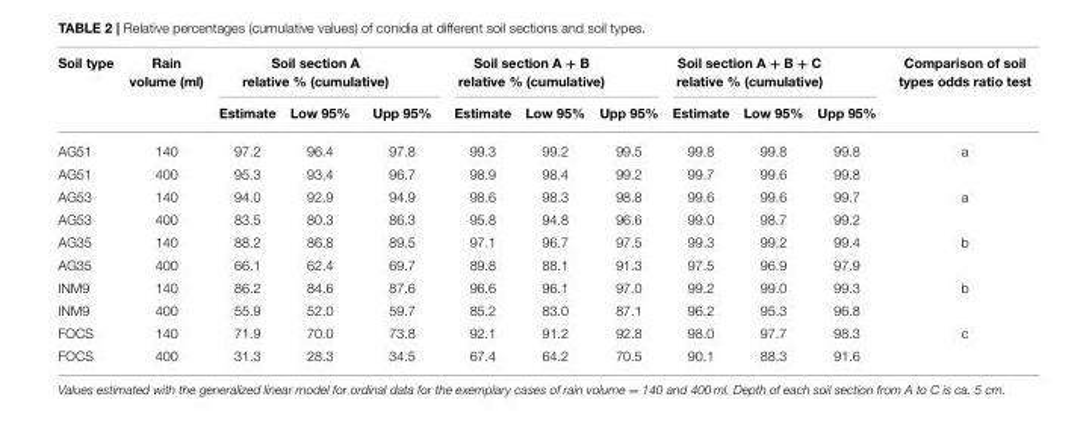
<table><thead><tr><td rowspan="2">Soil type</td><td rowspan="2">Rain volume (ml)</td><td colspan="3">Soil section A relative % (cumulative)</td><td colspan="3">Soil section A + B relative % (cumulative)</td><td colspan="3">Soil section A + B + C relative % (cumulative)</td><td rowspan="2">Comparison of soil types odds ratio test</td></tr><tr><td>Estimate</td><td>Low 95%</td><td>Upp 95%</td><td>Estimate</td><td>Low 95%</td><td>Upp 95%</td><td>Estimate</td><td>Low 95%</td><td>Upp 95%</td></tr></thead><tbody><tr><td>AG51</td><td>140</td><td>97.2</td><td>96.4</td><td>97.8</td><td>99.3</td><td>99.2</td><td>99.5</td><td>99.8</td><td>99.8</td><td>99.8</td><td>a</td></tr><tr><td>AG51</td><td>400</td><td>95.3</td><td>93.4</td><td>96.7</td><td>98.9</td><td>98.4</td><td>99.2</td><td>99.7</td><td>99.6</td><td>99.8</td><td></td></tr><tr><td>AG53</td><td>140</td><td>94.0</td><td>92.9</td><td>94.9</td><td>98.6</td><td>98.3</td><td>98.8</td><td>99.6</td><td>99.6</td><td>99.7</td><td>a</td></tr><tr><td>AG53</td><td>400</td><td>83.5</td><td>80.3</td><td>86.3</td><td>95.8</td><td>94.8</td><td>96.6</td><td>99.0</td><td>98.7</td><td>99.2</td><td></td></tr><tr><td>AG35</td><td>140</td><td>88.2</td><td>86.8</td><td>89.5</td><td>97.1</td><td>96.7</td><td>97.5</td><td>99.3</td><td>99.2</td><td>99.4</td><td>b</td></tr><tr><td>AG35</td><td>400</td><td>66.1</td><td>62.4</td><td>69.7</td><td>89.8</td><td>88.1</td><td>91.3</td><td>97.5</td><td>96.9</td><td>97.9</td><td></td></tr><tr><td>INM9</td><td>140</td><td>86.2</td><td>84.6</td><td>87.6</td><td>96.6</td><td>96.1</td><td>97.0</td><td>99.2</td><td>99.0</td><td>99.3</td><td>b</td></tr><tr><td>INM9</td><td>400</td><td>55.9</td><td>52.0</td><td>59.7</td><td>85.2</td><td>83.0</td><td>87.1</td><td>96.2</td><td>95.3</td><td>96.8</td><td></td></tr><tr><td>FOCS</td><td>140</td><td>71.9</td><td>70.0</td><td>73.8</td><td>92.1</td><td>91.2</td><td>92.8</td><td>98.0</td><td>97.7</td><td>98.3</td><td>c</td></tr><tr><td>FOCS</td><td>400</td><td>31.3</td><td>28.3</td><td>34.5</td><td>67.4</td><td>64.2</td><td>70.5</td><td>90.1</td><td>88.3</td><td>91.6</td><td></td></tr></tbody></table>